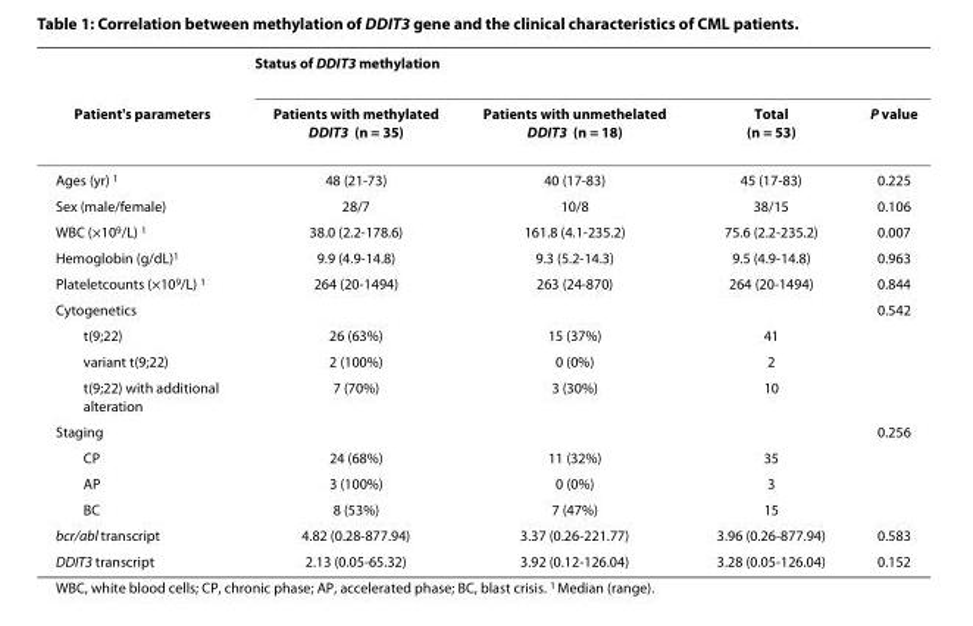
<table><thead><tr><td rowspan="2">Patient&#x27;s parameters</td><td colspan="4">Status of DDIT3 methylation</td></tr><tr><td>Patients with methylated DDIT3 (n = 35)</td><td>Patients with unmethelated DDIT3 (n = 18)</td><td>Total (n = 53)</td><td>P value</td></tr></thead><tbody><tr><td>Ages (yr) <sup>1</sup></td><td>48 (21-73)</td><td>40 (17-83)</td><td>45 (17-83)</td><td>0.225</td></tr><tr><td>Sex (male/female)</td><td>28/7</td><td>10/8</td><td>38/15</td><td>0.106</td></tr><tr><td>WBC (×10<sup>9</sup>/L) <sup>1</sup></td><td>38.0 (2.2-178.6)</td><td>161.8 (4.1-235.2)</td><td>75.6 (2.2-235.2)</td><td>0.007</td></tr><tr><td>Hemoglobin (g/dL)<sup>1</sup></td><td>9.9 (4.9-14.8)</td><td>9.3 (5.2-14.3)</td><td>9.5 (4.9-14.8)</td><td>0.963</td></tr><tr><td>Plateletcounts (×10<sup>9</sup>/L) <sup>1</sup></td><td>264 (20-1494)</td><td>263 (24-870)</td><td>264 (20-1494)</td><td>0.844</td></tr><tr><td>Cytogenetics</td><td></td><td></td><td></td><td>0.542</td></tr><tr><td>t(9;22)</td><td>26 (63%)</td><td>15 (37%)</td><td>41</td><td></td></tr><tr><td>variant t(9;22)</td><td>2 (100%)</td><td>0 (0%)</td><td>2</td><td></td></tr><tr><td>t(9;22) with additional alteration</td><td>7 (70%)</td><td>3 (30%)</td><td>10</td><td></td></tr><tr><td>Staging</td><td></td><td></td><td></td><td>0.256</td></tr><tr><td>CP</td><td>24 (68%)</td><td>11 (32%)</td><td>35</td><td></td></tr><tr><td>AP</td><td>3 (100%)</td><td>0 (0%)</td><td>3</td><td></td></tr><tr><td>BC</td><td>8 (53%)</td><td>7 (47%)</td><td>15</td><td></td></tr><tr><td>bcr/abl transcript</td><td>4.82 (0.28-877.94)</td><td>3.37 (0.26-221.77)</td><td>3.96 (0.26-877.94)</td><td>0.583</td></tr><tr><td>DDIT3 transcript</td><td>2.13 (0.05-65.32)</td><td>3.92 (0.12-126.04)</td><td>3.28 (0.05-126.04)</td><td>0.152</td></tr></tbody></table>